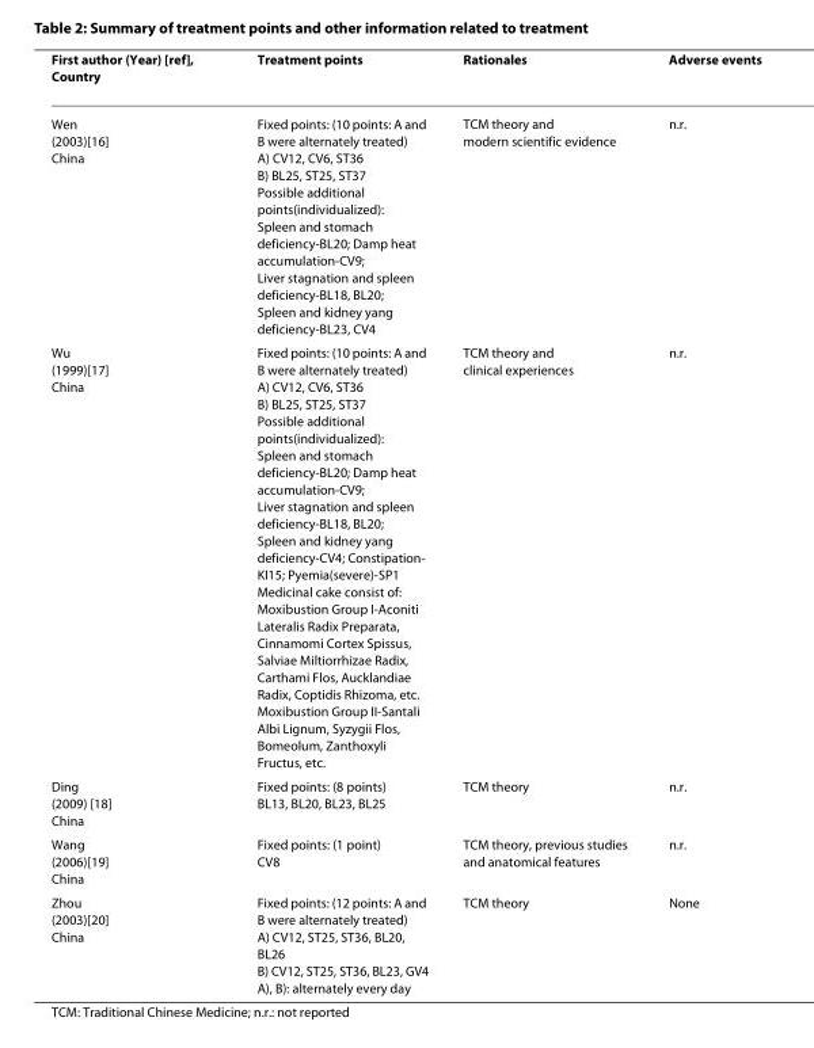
<table><thead><tr><td>First author (Year) [ref], Country</td><td>Treatment points</td><td>Rationales</td><td>Adverse events</td></tr></thead><tbody><tr><td>Wen (2003)[16] China</td><td>Fixed points: (10 points: A and B were alternately treated) A) CV12, CV6, ST36 B) BL25, ST25, ST37 Possible additional points(individualized): Spleen and stomach deficiency-BL20; Damp heat accumulation-CV9; Liver stagnation and spleen deficiency-BL18, BL20; Spleen and kidney yang deficiency-BL23, CV4</td><td>TCM theory and modern scientific evidence</td><td>n.r.</td></tr><tr><td>Wu (1999)[17] China</td><td>Fixed points: (10 points: A and B were alternately treated) A) CV12, CV6, ST36 B) BL25, ST25, ST37 Possible additional points(individualized): Spleen and stomach deficiency-BL20; Damp heat accumulation-CV9; Liver stagnation and spleen deficiency-BL18, BL20; Spleen and kidney yang deficiency-CV4; Constipation- KI15; Pyemia(severe)-SP1 Medicinal cake consist of: Moxibustion Group I-Aconiti Lateralis Radix Preparata, Cinnamomi Cortex Spissus, Salviae Miltiorrhizae Radix, Carthami Flos, Aucklandiae Radix, Coptidis Rhizoma, etc. Moxibustion Group II-Santali Albi Lignum, Syzygii Flos, Bomeolum, Zanthoxyli Fructus, etc.</td><td>TCM theory and clinical experiences</td><td>n.r.</td></tr><tr><td>Ding (2009) [18] China</td><td>Fixed points: (8 points) BL13, BL20, BL23, BL25</td><td>TCM theory</td><td>n.r.</td></tr><tr><td>Wang (2006)[19] China</td><td>Fixed points: (1 point) CV8</td><td>TCM theory, previous studies and anatomical features</td><td>n.r.</td></tr><tr><td>Zhou (2003)[20] China</td><td>Fixed points: (12 points: A and B were alternately treated) A) CV12, ST25, ST36, BL20, BL26 B) CV12, ST25, ST36, BL23, GV4 A), B): alternately every day</td><td>TCM theory</td><td>None</td></tr></tbody></table>